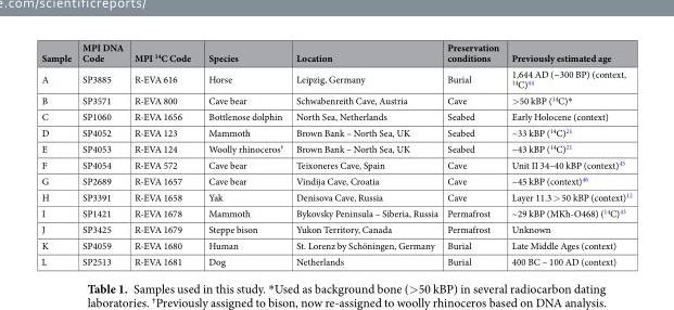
<table><thead><tr><td>Sample</td><td>MPI DNA Code</td><td>MPI <sup>14</sup>C Code</td><td>Species</td><td>Location</td><td>Preservation conditions</td><td>Previously estimated age</td></tr></thead><tbody><tr><td>A</td><td>SP3885</td><td>R-EVA 616</td><td>Horse</td><td>Leipzig, Germany</td><td>Burial</td><td>1,644 AD (~300 BP) (context, <sup>14</sup>C)<sup>44</sup></td></tr><tr><td>B</td><td>SP3571</td><td>R-EVA 800</td><td>Cave bear</td><td>Schwabenreith Cave, Austria</td><td>Cave</td><td>&gt;50 kBP (<sup>14</sup>C)*</td></tr><tr><td>C</td><td>SP1060</td><td>R-EVA 1656</td><td>Bottlenose dolphin</td><td>North Sea, Netherlands</td><td>Seabed</td><td>Early Holocene (context)</td></tr><tr><td>D</td><td>SP4052</td><td>R-EVA 123</td><td>Mammoth</td><td>Brown Bank – North Sea, UK</td><td>Seabed</td><td>~33 kBP (<sup>14</sup>C)<sup>21</sup></td></tr><tr><td>E</td><td>SP4053</td><td>R-EVA 124</td><td>Woolly rhinoceros<sup>†</sup></td><td>Brown Bank – North Sea, UK</td><td>Seabed</td><td>~43 kBP (<sup>14</sup>C)<sup>21</sup></td></tr><tr><td>F</td><td>SP4054</td><td>R-EVA 572</td><td>Cave bear</td><td>Teixoneres Cave, Spain</td><td>Cave</td><td>Unit II 34–40 kBP (context)<sup>45</sup></td></tr><tr><td>G</td><td>SP2689</td><td>R-EVA 1657</td><td>Cave bear</td><td>Vindija Cave, Croatia</td><td>Cave</td><td>~45 kBP (context)<sup>46</sup></td></tr><tr><td>H</td><td>SP3391</td><td>R-EVA 1658</td><td>Yak</td><td>Denisova Cave, Russia</td><td>Cave</td><td>Layer 11.3 &gt; 50 kBP (context)<sup>12</sup></td></tr><tr><td>I</td><td>SP1421</td><td>R-EVA 1678</td><td>Mammoth</td><td>Bykovsky Peninsula – Siberia, Russia</td><td>Permafrost</td><td>~29 kBP (MKh-O468) (<sup>14</sup>C)<sup>43</sup></td></tr><tr><td>J</td><td>SP3425</td><td>R-EVA 1679</td><td>Steppe bison</td><td>Yukon Territory, Canada</td><td>Permafrost</td><td>Unknown</td></tr><tr><td>K</td><td>SP4059</td><td>R-EVA 1680</td><td>Human</td><td>St. Lorenz by Schöningen, Germany</td><td>Burial</td><td>Late Middle Ages (context)</td></tr><tr><td>L</td><td>SP2513</td><td>R-EVA 1681</td><td>Dog</td><td>Netherlands</td><td>Burial</td><td>400 BC – 100 AD (context)</td></tr></tbody></table>